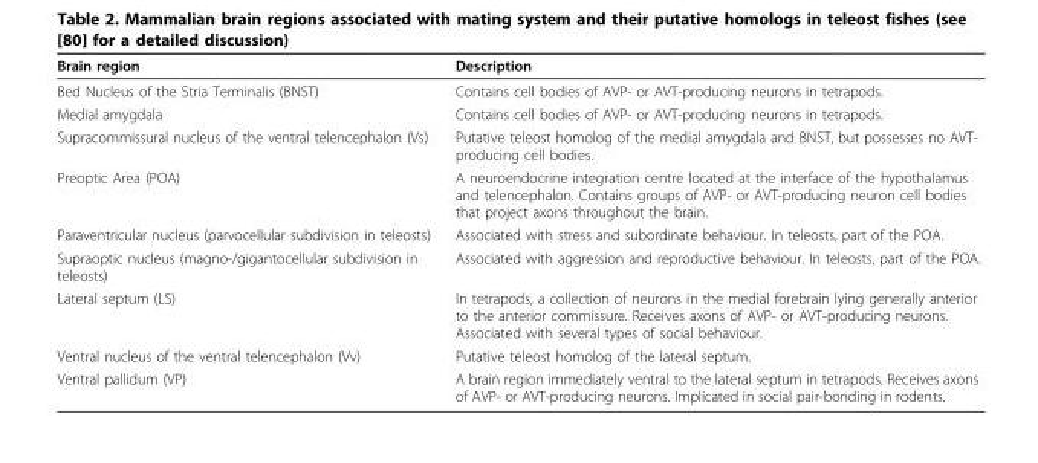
<table><tbody><tr><td>Brain region</td><td>Description</td></tr><tr><td>Bed Nucleus of the Stria Terminalis (BNST)</td><td>Contains cell bodies of AVP- or AVT-producing neurons in tetrapods.</td></tr><tr><td>Medial amygdala</td><td>Contains cell bodies of AVP- or AVT-producing neurons in tetrapods.</td></tr><tr><td>Supracommissural nucleus of the ventral telencephalon (Vs)</td><td>Putative teleost homolog of the medial amygdala and BNST, but possesses no AVT- producing cell bodies.</td></tr><tr><td>Preoptic Area (POA)</td><td>A neuroendocrine integration centre located at the interface of the hypothalamus and telencephalon. Contains groups of AVP- or AVT-producing neuron cell bodies that project axons throughout the brain.</td></tr><tr><td>Paraventricular nucleus (parvocellular subdivision in teleosts)</td><td>Associated with stress and subordinate behaviour. In teleosts, part of the POA.</td></tr><tr><td>Supraoptic nucleus (magno-/gigantocellular subdivision in teleosts)</td><td>Associated with aggression and reproductive behaviour. In teleosts, part of the POA.</td></tr><tr><td>Lateral septum (LS)</td><td>In tetrapods, a collection of neurons in the medial forebrain lying generally anterior to the anterior commissure. Receives axons of AVP- or AVT-producing neurons. Associated with several types of social behaviour.</td></tr><tr><td>Ventral nucleus of the ventral telencephalon (Vv)</td><td>Putative teleost homolog of the lateral septum.</td></tr><tr><td>Ventral pallidum (VP)</td><td>A brain region immediately ventral to the lateral septum in tetrapods. Receives axons of AVP- or AVT-producing neurons. Implicated in social pair-bonding in rodents.</td></tr></tbody></table>